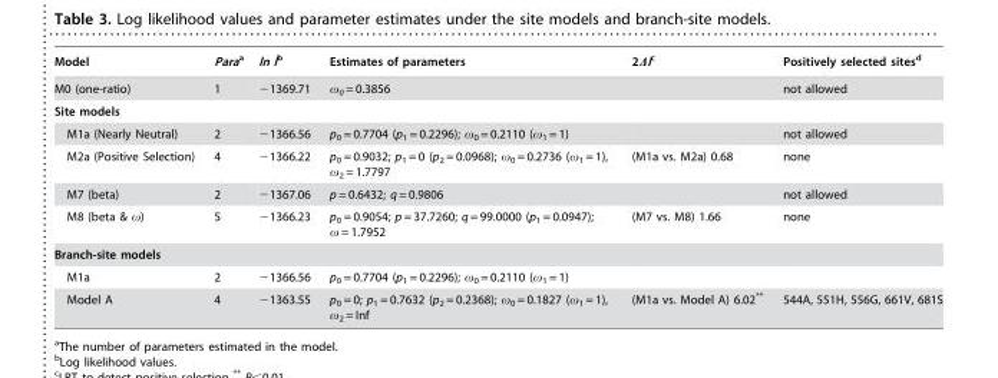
<table><thead><tr><td>Model</td><td>Paraa</td><td>ln lb</td><td>Estimates of parameters</td><td>2Δlc</td><td>Positively selected sites<sup>d</sup></td></tr></thead><tbody><tr><td>M0 (one-ratio)</td><td>1</td><td>−1369.71</td><td>ω<sub>0</sub> = 0.3856</td><td></td><td>not allowed</td></tr><tr><td colspan="6">Site models</td></tr><tr><td>M1a (Nearly Neutral)</td><td>2</td><td>−1366.56</td><td>p<sub>0</sub> = 0.7704 (p<sub>1</sub> = 0.2296); ω<sub>0</sub> = 0.2110 (ω<sub>1</sub> = 1)</td><td></td><td>not allowed</td></tr><tr><td>M2a (Positive Selection)</td><td>4</td><td>−1366.22</td><td>p<sub>0</sub> = 0.9032; p<sub>1</sub> = 0 (p<sub>2</sub> = 0.0968); ω<sub>0</sub> = 0.2736 (ω<sub>1</sub> = 1), ω<sub>2</sub> = 1.7797</td><td>(M1a vs. M2a) 0.68</td><td>none</td></tr><tr><td>M7 (beta)</td><td>2</td><td>−1367.06</td><td>p = 0.6432; q = 0.9806</td><td></td><td>not allowed</td></tr><tr><td>M8 (beta &amp; ω)</td><td>5</td><td>−1366.23</td><td>p<sub>0</sub> = 0.9054; p = 37.7260; q = 99.0000 (p<sub>1</sub> = 0.0947); ω = 1.7952</td><td>(M7 vs. M8) 1.66</td><td>none</td></tr><tr><td colspan="6">Branch-site models</td></tr><tr><td>M1a</td><td>2</td><td>−1366.56</td><td>p<sub>0</sub> = 0.7704 (p<sub>1</sub> = 0.2296); ω<sub>0</sub> = 0.2110 (ω<sub>1</sub> = 1)</td><td></td><td></td></tr><tr><td>Model A</td><td>4</td><td>−1363.55</td><td>p<sub>0</sub> = 0; p<sub>1</sub> = 0.7632 (p<sub>2</sub> = 0.2368); ω<sub>0</sub> = 0.1827 (ω<sub>1</sub> = 1), ω<sub>2</sub> = Inf</td><td>(M1a vs. Model A) 6.02**</td><td>544A, 551H, 556G, 661V, 681S</td></tr></tbody></table>